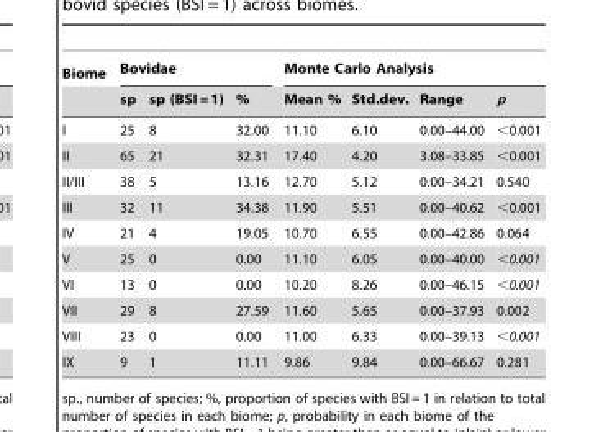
<table><thead><tr><td rowspan="2">Biome</td><td colspan="3">Bovidae</td><td colspan="4">Monte Carlo Analysis</td></tr><tr><td>sp</td><td>sp (BSI = 1)</td><td>%</td><td>Mean %</td><td>Std.dev.</td><td>Range</td><td>p</td></tr></thead><tbody><tr><td>I</td><td>25</td><td>8</td><td>32.00</td><td>11.10</td><td>6.10</td><td>0.00–44.00</td><td>&lt;0.001</td></tr><tr><td>II</td><td>65</td><td>21</td><td>32.31</td><td>17.40</td><td>4.20</td><td>3.08–33.85</td><td>&lt;0.001</td></tr><tr><td>II/III</td><td>38</td><td>5</td><td>13.16</td><td>12.70</td><td>5.12</td><td>0.00–34.21</td><td>0.540</td></tr><tr><td>III</td><td>32</td><td>11</td><td>34.38</td><td>11.90</td><td>5.51</td><td>0.00–40.62</td><td>&lt;0.001</td></tr><tr><td>IV</td><td>21</td><td>4</td><td>19.05</td><td>10.70</td><td>6.55</td><td>0.00–42.86</td><td>0.064</td></tr><tr><td>V</td><td>25</td><td>0</td><td>0.00</td><td>11.10</td><td>6.05</td><td>0.00–40.00</td><td>&lt;0.001</td></tr><tr><td>VI</td><td>13</td><td>0</td><td>0.00</td><td>10.20</td><td>8.26</td><td>0.00–46.15</td><td>&lt;0.001</td></tr><tr><td>VII</td><td>29</td><td>8</td><td>27.59</td><td>11.60</td><td>5.65</td><td>0.00–37.93</td><td>0.002</td></tr><tr><td>VIII</td><td>23</td><td>0</td><td>0.00</td><td>11.00</td><td>6.33</td><td>0.00–39.13</td><td>&lt;0.001</td></tr><tr><td>IX</td><td>9</td><td>1</td><td>11.11</td><td>9.86</td><td>9.84</td><td>0.00–66.67</td><td>0.281</td></tr></tbody></table>